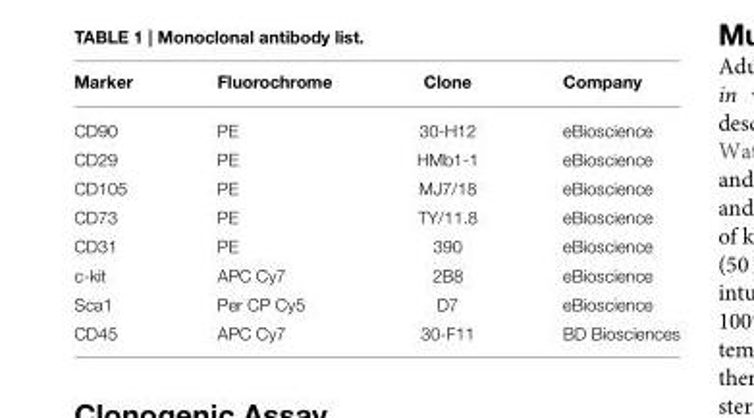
<table><thead><tr><td>Marker</td><td>Fluorochrome</td><td>Clone</td><td>Company</td></tr></thead><tbody><tr><td>CD90</td><td>PE</td><td>30-H12</td><td>eBioscience</td></tr><tr><td>CD29</td><td>PE</td><td>HMb1-1</td><td>eBioscience</td></tr><tr><td>CD105</td><td>PE</td><td>MJ7/18</td><td>eBioscience</td></tr><tr><td>CD73</td><td>PE</td><td>TY/11.8</td><td>eBioscience</td></tr><tr><td>CD31</td><td>PE</td><td>390</td><td>eBioscience</td></tr><tr><td>c-kit</td><td>APC Cy7</td><td>2B8</td><td>eBioscience</td></tr><tr><td>Sca1</td><td>Per CP Cy5</td><td>D7</td><td>eBioscience</td></tr><tr><td>CD45</td><td>APC Cy7</td><td>30-F11</td><td>BD Biosciences</td></tr></tbody></table>